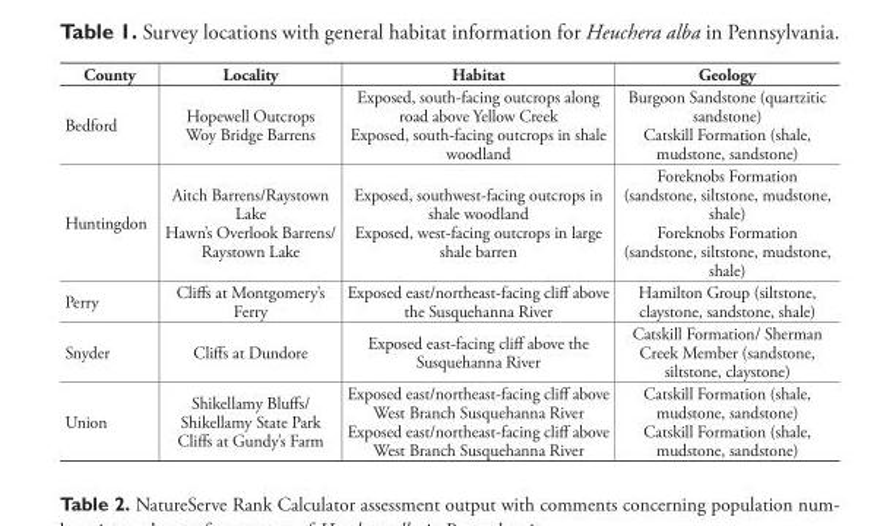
<table><thead><tr><td>County</td><td>Locality</td><td>Habitat</td><td>Geology</td></tr></thead><tbody><tr><td>Bedford</td><td>Hopewell Outcrops Woy Bridge Barrens</td><td>Exposed, south-facing outcrops along road above Yellow Creek Exposed, south-facing outcrops in shale woodland</td><td>Burgoon Sandstone (quartzitic sandstone) Catskill Formation (shale, mudstone, sandstone)</td></tr><tr><td>Huntingdon</td><td>Aitch Barrens/Raystown Lake Hawn’s Overlook Barrens/ Raystown Lake</td><td>Exposed, southwest-facing outcrops in shale woodland Exposed, west-facing outcrops in large shale barren</td><td>Foreknobs Formation (sandstone, siltstone, mudstone, shale) Foreknobs Formation (sandstone, siltstone, mudstone, shale)</td></tr><tr><td>Perry</td><td>Cliffs at Montgomery’s Ferry</td><td>Exposed east/northeast-facing cliff above the Susquehanna River</td><td>Hamilton Group (siltstone, claystone, sandstone, shale)</td></tr><tr><td>Snyder</td><td>Cliffs at Dundore</td><td>Exposed east-facing cliff above the Susquehanna River</td><td>Catskill Formation/ Sherman Creek Member (sandstone, siltstone, claystone)</td></tr><tr><td>Union</td><td>Shikellamy Bluffs/ Shikellamy State Park Cliffs at Gundy’s Farm</td><td>Exposed east/northeast-facing cliff above West Branch Susquehanna River Exposed east/northeast-facing cliff above West Branch Susquehanna River</td><td>Catskill Formation (shale, mudstone, sandstone) Catskill Formation (shale, mudstone, sandstone)</td></tr></tbody></table>